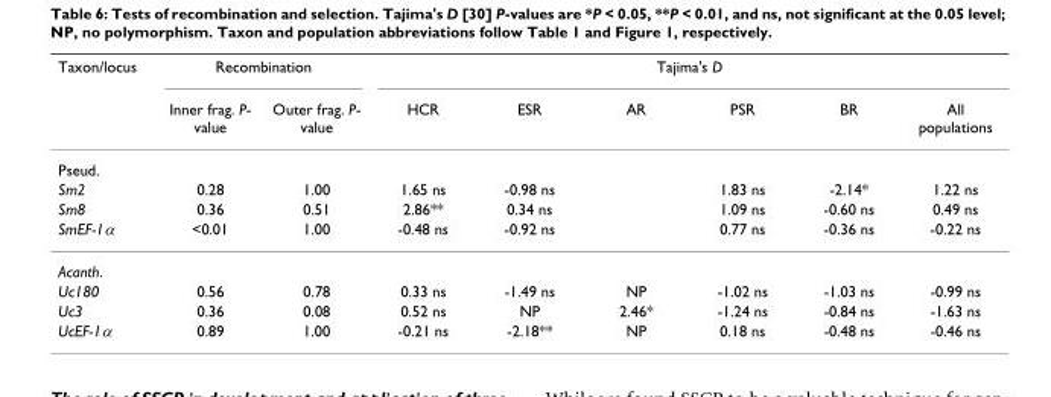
<table><thead><tr><td rowspan="2">Taxon/locus</td><td colspan="2">Recombination</td><td colspan="6">Tajima&#x27;s D</td></tr><tr><td>Inner frag. P- value</td><td>Outer frag. P- value</td><td>HCR</td><td>ESR</td><td>AR</td><td>PSR</td><td>BR</td><td>All populations</td></tr></thead><tbody><tr><td colspan="9">Pseud.</td></tr><tr><td>Sm2</td><td>0.28</td><td>1.00</td><td>1.65 ns</td><td>-0.98 ns</td><td></td><td>1.83 ns</td><td>-2.14*</td><td>1.22 ns</td></tr><tr><td>Sm8</td><td>0.36</td><td>0.51</td><td>2.86**</td><td>0.34 ns</td><td></td><td>1.09 ns</td><td>-0.60 ns</td><td>0.49 ns</td></tr><tr><td>SmEF-1α</td><td>&lt;0.01</td><td>1.00</td><td>-0.48 ns</td><td>-0.92 ns</td><td></td><td>0.77 ns</td><td>-0.36 ns</td><td>-0.22 ns</td></tr><tr><td colspan="9">Acanth.</td></tr><tr><td>Uc180</td><td>0.56</td><td>0.78</td><td>0.33 ns</td><td>-1.49 ns</td><td>NP</td><td>-1.02 ns</td><td>-1.03 ns</td><td>-0.99 ns</td></tr><tr><td>Uc3</td><td>0.36</td><td>0.08</td><td>0.52 ns</td><td>NP</td><td>2.46*</td><td>-1.24 ns</td><td>-0.84 ns</td><td>-1.63 ns</td></tr><tr><td>UcEF-1α</td><td>0.89</td><td>1.00</td><td>-0.21 ns</td><td>-2.18**</td><td>NP</td><td>0.18 ns</td><td>-0.48 ns</td><td>-0.46 ns</td></tr></tbody></table>